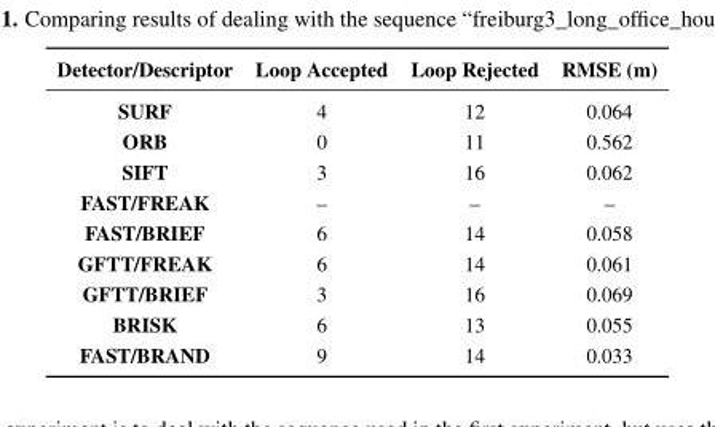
<table><thead><tr><td>Detector/Descriptor</td><td>Loop Accepted</td><td>Loop Rejected</td><td>RMSE (m)</td></tr></thead><tbody><tr><td>SURF</td><td>4</td><td>12</td><td>0.064</td></tr><tr><td>ORB</td><td>0</td><td>11</td><td>0.562</td></tr><tr><td>SIFT</td><td>3</td><td>16</td><td>0.062</td></tr><tr><td>FAST/FREAK</td><td>–</td><td>–</td><td>–</td></tr><tr><td>FAST/BRIEF</td><td>6</td><td>14</td><td>0.058</td></tr><tr><td>GFTT/FREAK</td><td>6</td><td>14</td><td>0.061</td></tr><tr><td>GFTT/BRIEF</td><td>3</td><td>16</td><td>0.069</td></tr><tr><td>BRISK</td><td>6</td><td>13</td><td>0.055</td></tr><tr><td>FAST/BRAND</td><td>9</td><td>14</td><td>0.033</td></tr></tbody></table>